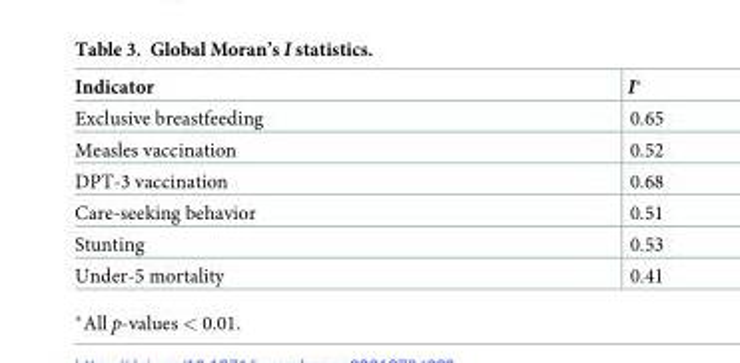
<table><thead><tr><td>Indicator</td><td>I*</td></tr></thead><tbody><tr><td>Exclusive breastfeeding</td><td>0.65</td></tr><tr><td>Measles vaccination</td><td>0.52</td></tr><tr><td>DPT-3 vaccination</td><td>0.68</td></tr><tr><td>Care-seeking behavior</td><td>0.51</td></tr><tr><td>Stunting</td><td>0.53</td></tr><tr><td>Under-5 mortality</td><td>0.41</td></tr></tbody></table>